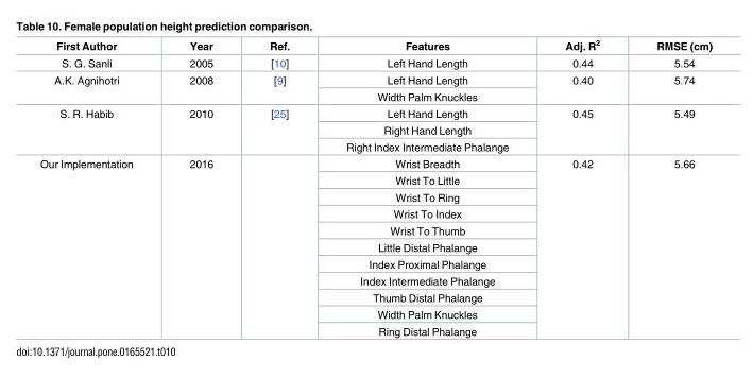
<table><thead><tr><td>First Author</td><td>Year</td><td>Ref.</td><td>Features</td><td>Adj. R<sup>2</sup></td><td>RMSE (cm)</td></tr></thead><tbody><tr><td>S. G. Sanli</td><td>2005</td><td>[10]</td><td>Left Hand Length</td><td>0.44</td><td>5.54</td></tr><tr><td rowspan="2">A.K. Agnihotri</td><td rowspan="2">2008</td><td rowspan="2">[9]</td><td>Left Hand Length</td><td rowspan="2">0.40</td><td rowspan="2">5.74</td></tr><tr><td>Width Palm Knuckles</td></tr><tr><td rowspan="3">S. R. Habib</td><td rowspan="3">2010</td><td rowspan="3">[25]</td><td>Left Hand Length</td><td rowspan="3">0.45</td><td rowspan="3">5.49</td></tr><tr><td>Right Hand Length</td></tr><tr><td>Right Index Intermediate Phalange</td></tr><tr><td rowspan="11">Our Implementation</td><td rowspan="11">2016</td><td rowspan="11"></td><td>Wrist Breadth</td><td rowspan="11">0.42</td><td rowspan="11">5.66</td></tr><tr><td>Wrist To Little</td></tr><tr><td>Wrist To Ring</td></tr><tr><td>Wrist To Index</td></tr><tr><td>Wrist To Thumb</td></tr><tr><td>Little Distal Phalange</td></tr><tr><td>Index Proximal Phalange</td></tr><tr><td>Index Intermediate Phalange</td></tr><tr><td>Thumb Distal Phalange</td></tr><tr><td>Width Palm Knuckles</td></tr><tr><td>Ring Distal Phalange</td></tr></tbody></table>